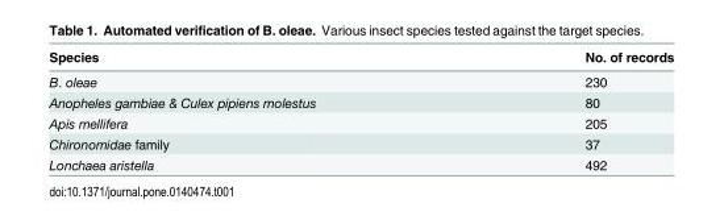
<table><thead><tr><td>Species</td><td>No. of records</td></tr></thead><tbody><tr><td>B. oleae</td><td>230</td></tr><tr><td>Anopheles gambiae &amp; Culex pipiens molestus</td><td>80</td></tr><tr><td>Apis mellifera</td><td>205</td></tr><tr><td>Chironomidae family</td><td>37</td></tr><tr><td>Lonchaea aristella</td><td>492</td></tr></tbody></table>